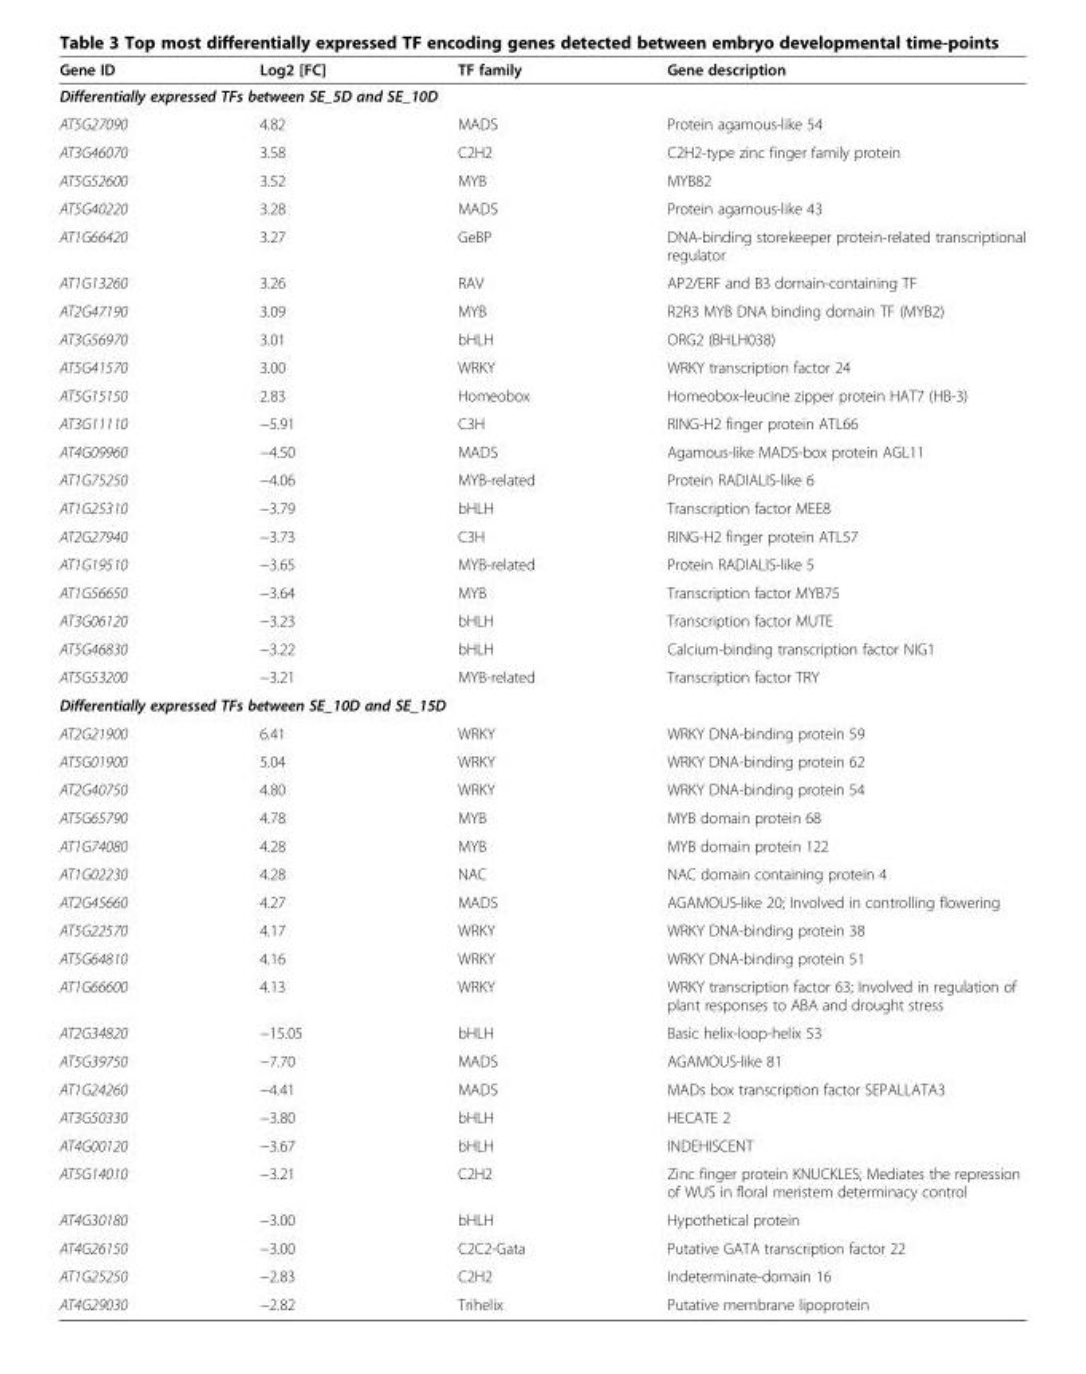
<table><thead><tr><td>Gene ID</td><td>Log2 [FC]</td><td>TF family</td><td>Gene description</td></tr></thead><tbody><tr><td colspan="4">Differentially expressed TFs between SE_5D and SE_10D</td></tr><tr><td>AT5G27090</td><td>4.82</td><td>MADS</td><td>Protein agamous-like 54</td></tr><tr><td>AT3G46070</td><td>3.58</td><td>C2H2</td><td>C2H2-type zinc finger family protein</td></tr><tr><td>AT5G52600</td><td>3.52</td><td>MYB</td><td>MYB82</td></tr><tr><td>AT5G40220</td><td>3.28</td><td>MADS</td><td>Protein agamous-like 43</td></tr><tr><td>AT1G66420</td><td>3.27</td><td>GeBP</td><td>DNA-binding storekeeper protein-related transcriptional regulator</td></tr><tr><td>AT1G13260</td><td>3.26</td><td>RAV</td><td>AP2/ERF and B3 domain-containing TF</td></tr><tr><td>AT2G47190</td><td>3.09</td><td>MYB</td><td>R2R3 MYB DNA binding domain TF (MYB2)</td></tr><tr><td>AT3G56970</td><td>3.01</td><td>bHLH</td><td>ORG2 (BHLH038)</td></tr><tr><td>AT5G41570</td><td>3.00</td><td>WRKY</td><td>WRKY transcription factor 24</td></tr><tr><td>AT5G15150</td><td>2.83</td><td>Homeobox</td><td>Homeobox-leucine zipper protein HAT7 (HB-3)</td></tr><tr><td>AT3G11110</td><td>−5.91</td><td>C3H</td><td>RING-H2 finger protein ATL66</td></tr><tr><td>AT4G09960</td><td>−4.50</td><td>MADS</td><td>Agamous-like MADS-box protein AGL11</td></tr><tr><td>AT1G75250</td><td>−4.06</td><td>MYB-related</td><td>Protein RADIALIS-like 6</td></tr><tr><td>AT1G25310</td><td>−3.79</td><td>bHLH</td><td>Transcription factor MEE8</td></tr><tr><td>AT2G27940</td><td>−3.73</td><td>C3H</td><td>RING-H2 finger protein ATL57</td></tr><tr><td>AT1G19510</td><td>−3.65</td><td>MYB-related</td><td>Protein RADIALIS-like 5</td></tr><tr><td>AT1G56650</td><td>−3.64</td><td>MYB</td><td>Transcription factor MYB75</td></tr><tr><td>AT3G06120</td><td>−3.23</td><td>bHLH</td><td>Transcription factor MUTE</td></tr><tr><td>AT5G46830</td><td>−3.22</td><td>bHLH</td><td>Calcium-binding transcription factor NIG1</td></tr><tr><td>AT5G53200</td><td>−3.21</td><td>MYB-related</td><td>Transcription factor TRY</td></tr><tr><td colspan="4">Differentially expressed TFs between SE_10D and SE_15D</td></tr><tr><td>AT2G21900</td><td>6.41</td><td>WRKY</td><td>WRKY DNA-binding protein 59</td></tr><tr><td>AT5G01900</td><td>5.04</td><td>WRKY</td><td>WRKY DNA-binding protein 62</td></tr><tr><td>AT2G40750</td><td>4.80</td><td>WRKY</td><td>WRKY DNA-binding protein 54</td></tr><tr><td>AT5G65790</td><td>4.78</td><td>MYB</td><td>MYB domain protein 68</td></tr><tr><td>AT1G74080</td><td>4.28</td><td>MYB</td><td>MYB domain protein 122</td></tr><tr><td>AT1G02230</td><td>4.28</td><td>NAC</td><td>NAC domain containing protein 4</td></tr><tr><td>AT2G45660</td><td>4.27</td><td>MADS</td><td>AGAMOUS-like 20; Involved in controlling flowering</td></tr><tr><td>AT5G22570</td><td>4.17</td><td>WRKY</td><td>WRKY DNA-binding protein 38</td></tr><tr><td>AT5G64810</td><td>4.16</td><td>WRKY</td><td>WRKY DNA-binding protein 51</td></tr><tr><td>AT1G66600</td><td>4.13</td><td>WRKY</td><td>WRKY transcription factor 63; Involved in regulation of plant responses to ABA and drought stress</td></tr><tr><td>AT2G34820</td><td>−15.05</td><td>bHLH</td><td>Basic helix-loop-helix 53</td></tr><tr><td>AT5G39750</td><td>−7.70</td><td>MADS</td><td>AGAMOUS-like 81</td></tr><tr><td>AT1G24260</td><td>−4.41</td><td>MADS</td><td>MADs box transcription factor SEPALLATA3</td></tr><tr><td>AT3G50330</td><td>−3.80</td><td>bHLH</td><td>HECATE 2</td></tr><tr><td>AT4G00120</td><td>−3.67</td><td>bHLH</td><td>INDEHISCENT</td></tr><tr><td>AT5G14010</td><td>−3.21</td><td>C2H2</td><td>Zinc finger protein KNUCKLES; Mediates the repression of WUS in floral meristem determinacy control</td></tr><tr><td>AT4G30180</td><td>−3.00</td><td>bHLH</td><td>Hypothetical protein</td></tr><tr><td>AT4G26150</td><td>−3.00</td><td>C2C2-Gata</td><td>Putative GATA transcription factor 22</td></tr><tr><td>AT1G25250</td><td>−2.83</td><td>C2H2</td><td>Indeterminate-domain 16</td></tr><tr><td>AT4G29030</td><td>−2.82</td><td>Trihelix</td><td>Putative membrane lipoprotein</td></tr></tbody></table>